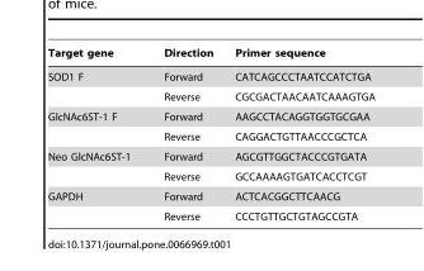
<table><thead><tr><td>Target gene</td><td>Direction</td><td>Primer sequence</td></tr></thead><tbody><tr><td rowspan="2">SOD1 F</td><td>Forward</td><td>CATCAGCCCTAATCCATCTGA</td></tr><tr><td>Reverse</td><td>CGCGACTAACAATCAAAGTGA</td></tr><tr><td rowspan="2">GlcNAc6ST-1 F</td><td>Forward</td><td>AAGCCTACAGGTGGTGCGAA</td></tr><tr><td>Reverse</td><td>CAGGACTGTTAACCCGCTCA</td></tr><tr><td rowspan="2">Neo GlcNAc6ST-1</td><td>Forward</td><td>AGCGTTGGCTACCCGTGATA</td></tr><tr><td>Reverse</td><td>GCCAAAAGTGATCACCTCGT</td></tr><tr><td rowspan="2">GAPDH</td><td>Forward</td><td>ACTCACGGCTTCAACG</td></tr><tr><td>Reverse</td><td>CCCTGTTGCTGTAGCCGTA</td></tr></tbody></table>